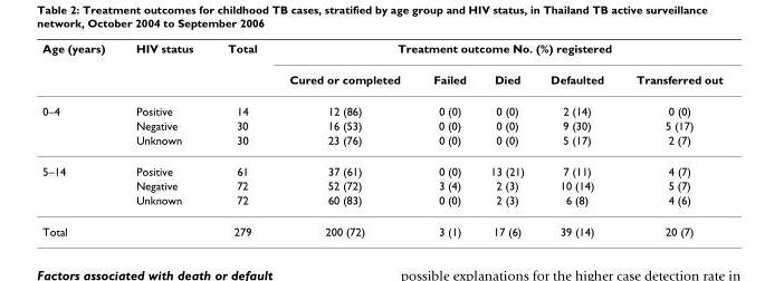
<table><thead><tr><td rowspan="2">Age (years)</td><td rowspan="2">HIV status</td><td rowspan="2">Total</td><td colspan="5">Treatment outcome No. (%) registered</td></tr><tr><td>Cured or completed</td><td>Failed</td><td>Died</td><td>Defaulted</td><td>Transferred out</td></tr></thead><tbody><tr><td rowspan="3">0–4</td><td>Positive</td><td>14</td><td>12 (86)</td><td>0 (0)</td><td>0 (0)</td><td>2 (14)</td><td>0 (0)</td></tr><tr><td>Negative</td><td>30</td><td>16 (53)</td><td>0 (0)</td><td>0 (0)</td><td>9 (30)</td><td>5 (17)</td></tr><tr><td>Unknown</td><td>30</td><td>23 (76)</td><td>0 (0)</td><td>0 (0)</td><td>5 (17)</td><td>2 (7)</td></tr><tr><td rowspan="3">5–14</td><td>Positive</td><td>61</td><td>37 (61)</td><td>0 (0)</td><td>13 (21)</td><td>7 (11)</td><td>4 (7)</td></tr><tr><td>Negative</td><td>72</td><td>52 (72)</td><td>3 (4)</td><td>2 (3)</td><td>10 (14)</td><td>5 (7)</td></tr><tr><td>Unknown</td><td>72</td><td>60 (83)</td><td>0 (0)</td><td>2 (3)</td><td>6 (8)</td><td>4 (6)</td></tr><tr><td colspan="2">Total</td><td>279</td><td>200 (72)</td><td>3 (1)</td><td>17 (6)</td><td>39 (14)</td><td>20 (7)</td></tr></tbody></table>